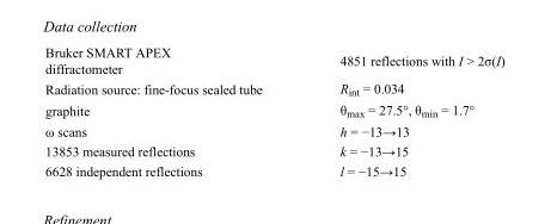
<table><tbody><tr><td>Bruker SMART APEX diffractometer</td><td>4851 reflections with I &gt; 2σ(I)</td></tr><tr><td>Radiation source: fine-focus sealed tube</td><td>R<sub>int</sub> = 0.034</td></tr><tr><td>graphite</td><td>θ<sub>max</sub> = 27.5°, θ<sub>min</sub> = 1.7°</td></tr><tr><td>ω scans</td><td>h = −13→13</td></tr><tr><td>13853 measured reflections</td><td>k = −13→15</td></tr><tr><td>6628 independent reflections</td><td>l = −15→15</td></tr></tbody></table>